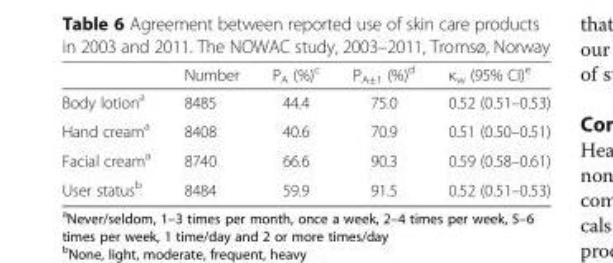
<table><thead><tr><td></td><td>Number</td><td>P<sub>A</sub> (%)<sup>c</sup></td><td>P<sub>A±1</sub> (%)<sup>d</sup></td><td>κ<sub>w</sub> (95% CI)<sup>e</sup></td></tr></thead><tbody><tr><td>Body lotion<sup>a</sup></td><td>8485</td><td>44.4</td><td>75.0</td><td>0.52 (0.51–0.53)</td></tr><tr><td>Hand cream<sup>a</sup></td><td>8408</td><td>40.6</td><td>70.9</td><td>0.51 (0.50–0.51)</td></tr><tr><td>Facial cream<sup>a</sup></td><td>8740</td><td>66.6</td><td>90.3</td><td>0.59 (0.58–0.61)</td></tr><tr><td>User status<sup>b</sup></td><td>8484</td><td>59.9</td><td>91.5</td><td>0.52 (0.51–0.53)</td></tr></tbody></table>